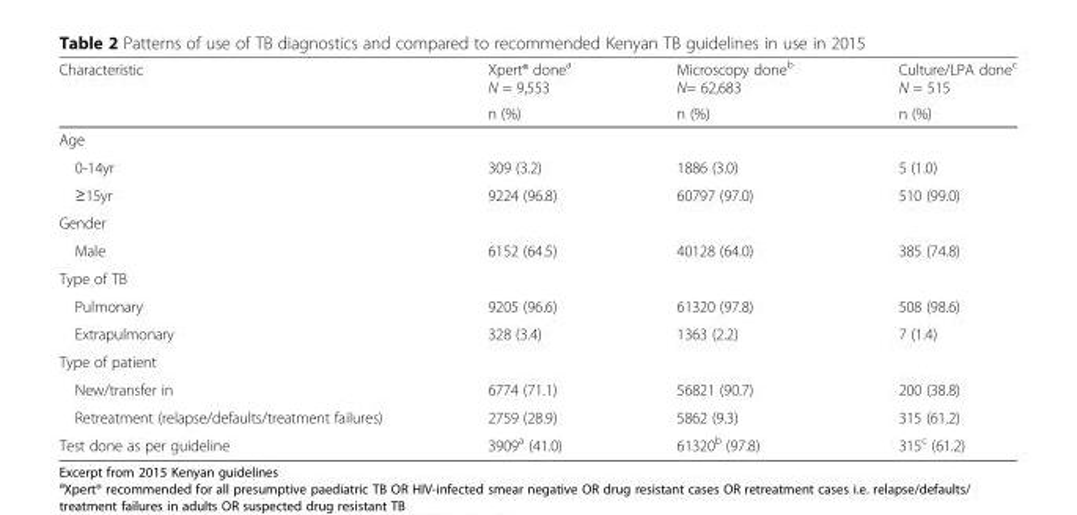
<table><thead><tr><td rowspan="2">Characteristic</td><td rowspan="2">Xpert® done<sup>a</sup> N = 9,553 n (%)</td><td rowspan="2">Microscopy done<sup>b</sup> N= 62,683 n (%)</td><td rowspan="2">Culture/LPA done<sup>c</sup> N = 515 n (%)</td></tr><tr></tr></thead><tbody><tr><td colspan="4">Age</td></tr><tr><td>0-14yr</td><td>309 (3.2)</td><td>1886 (3.0)</td><td>5 (1.0)</td></tr><tr><td>≥15yr</td><td>9224 (96.8)</td><td>60797 (97.0)</td><td>510 (99.0)</td></tr><tr><td colspan="4">Gender</td></tr><tr><td>Male</td><td>6152 (64.5)</td><td>40128 (64.0)</td><td>385 (74.8)</td></tr><tr><td colspan="4">Type of TB</td></tr><tr><td>Pulmonary</td><td>9205 (96.6)</td><td>61320 (97.8)</td><td>508 (98.6)</td></tr><tr><td>Extrapulmonary</td><td>328 (3.4)</td><td>1363 (2.2)</td><td>7 (1.4)</td></tr><tr><td colspan="4">Type of patient</td></tr><tr><td>New/transfer in</td><td>6774 (71.1)</td><td>56821 (90.7)</td><td>200 (38.8)</td></tr><tr><td>Retreatment (relapse/defaults/treatment failures)</td><td>2759 (28.9)</td><td>5862 (9.3)</td><td>315 (61.2)</td></tr><tr><td>Test done as per guideline</td><td>3909<sup>a</sup> (41.0)</td><td>61320<sup>b</sup> (97.8)</td><td>315<sup>c</sup> (61.2)</td></tr></tbody></table>